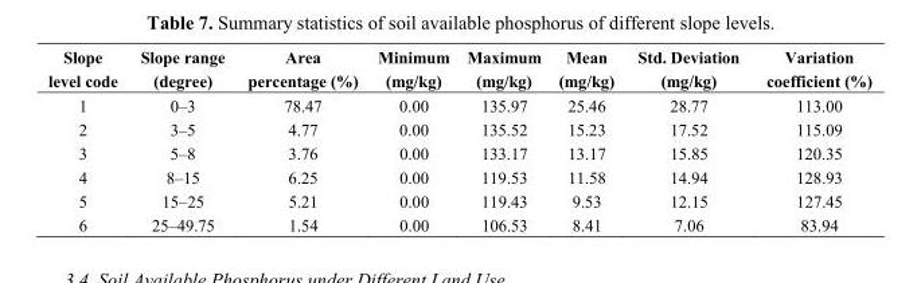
<table><thead><tr><td>Slope level code</td><td>Slope range (degree)</td><td>Area percentage (%)</td><td>Minimum (mg/kg)</td><td>Maximum (mg/kg)</td><td>Mean (mg/kg)</td><td>Std. Deviation (mg/kg)</td><td>Variation coefficient (%)</td></tr></thead><tbody><tr><td>1</td><td>0–3</td><td>78.47</td><td>0.00</td><td>135.97</td><td>25.46</td><td>28.77</td><td>113.00</td></tr><tr><td>2</td><td>3–5</td><td>4.77</td><td>0.00</td><td>135.52</td><td>15.23</td><td>17.52</td><td>115.09</td></tr><tr><td>3</td><td>5–8</td><td>3.76</td><td>0.00</td><td>133.17</td><td>13.17</td><td>15.85</td><td>120.35</td></tr><tr><td>4</td><td>8–15</td><td>6.25</td><td>0.00</td><td>119.53</td><td>11.58</td><td>14.94</td><td>128.93</td></tr><tr><td>5</td><td>15–25</td><td>5.21</td><td>0.00</td><td>119.43</td><td>9.53</td><td>12.15</td><td>127.45</td></tr><tr><td>6</td><td>25–49.75</td><td>1.54</td><td>0.00</td><td>106.53</td><td>8.41</td><td>7.06</td><td>83.94</td></tr></tbody></table>